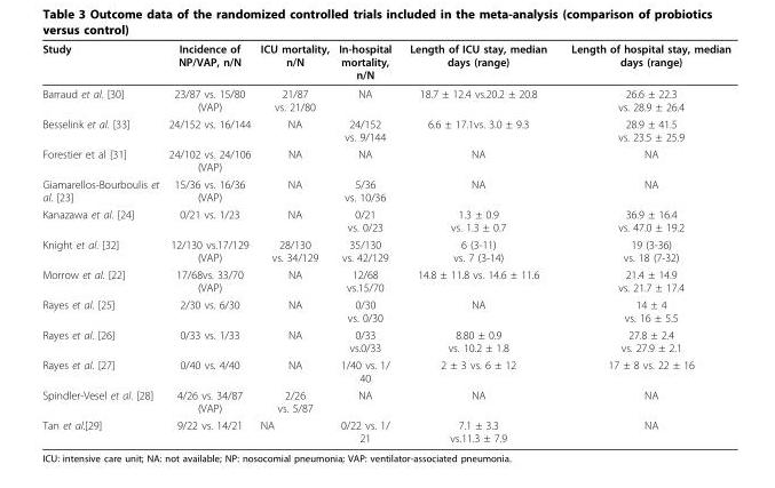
<table><thead><tr><td>Study</td><td>Incidence of NP/VAP, n/N</td><td>ICU mortality, n/N</td><td>In-hospital mortality, n/N</td><td>Length of ICU stay, median days (range)</td><td>Length of hospital stay, median days (range)</td></tr></thead><tbody><tr><td>Barraud et al. [30]</td><td>23/87 vs. 15/80 (VAP)</td><td>21/87 vs. 21/80</td><td>NA</td><td>18.7 ± 12.4 vs.20.2 ± 20.8</td><td>26.6 ± 22.3 vs. 28.9 ± 26.4</td></tr><tr><td>Besselink et al. [33]</td><td>24/152 vs. 16/144</td><td>NA</td><td>24/152 vs. 9/144</td><td>6.6 ± 17.1vs. 3.0 ± 9.3</td><td>28.9 ± 41.5 vs. 23.5 ± 25.9</td></tr><tr><td>Forestier et al [31]</td><td>24/102 vs. 24/106 (VAP)</td><td>NA</td><td>NA</td><td>NA</td><td>NA</td></tr><tr><td>Giamarellos-Bourboulis et al. [23]</td><td>15/36 vs. 16/36 (VAP)</td><td>NA</td><td>5/36 vs. 10/36</td><td>NA</td><td>NA</td></tr><tr><td>Kanazawa et al. [24]</td><td>0/21 vs. 1/23</td><td>NA</td><td>0/21 vs. 0/23</td><td>1.3 ± 0.9 vs. 1.3 ± 0.7</td><td>36.9 ± 16.4 vs. 47.0 ± 19.2</td></tr><tr><td>Knight et al. [32]</td><td>12/130 vs.17/129 (VAP)</td><td>28/130 vs. 34/129</td><td>35/130 vs. 42/129</td><td>6 (3-11) vs. 7 (3-14)</td><td>19 (3-36) vs. 18 (7-32)</td></tr><tr><td>Morrow et al. [22]</td><td>17/68vs. 33/70 (VAP)</td><td>NA</td><td>12/68 vs.15/70</td><td>14.8 ± 11.8 vs. 14.6 ± 11.6</td><td>21.4 ± 14.9 vs. 21.7 ± 17.4</td></tr><tr><td>Rayes et al. [25]</td><td>2/30 vs. 6/30</td><td>NA</td><td>0/30 vs. 0/30</td><td>NA</td><td>14 ± 4 vs. 16 ± 5.5</td></tr><tr><td>Rayes et al. [26]</td><td>0/33 vs. 1/33</td><td>NA</td><td>0/33 vs.0/33</td><td>8.80 ± 0.9 vs. 10.2 ± 1.8</td><td>27.8 ± 2.4 vs. 27.9 ± 2.1</td></tr><tr><td>Rayes et al. [27]</td><td>0/40 vs. 4/40</td><td>NA</td><td>1/40 vs. 1/ 40</td><td>2 ± 3 vs. 6 ± 12</td><td>17 ± 8 vs. 22 ± 16</td></tr><tr><td>Spindler-Vesel et al. [28]</td><td>4/26 vs. 34/87 (VAP)</td><td>2/26 vs. 5/87</td><td>NA</td><td>NA</td><td>NA</td></tr><tr><td>Tan et al.[29]</td><td>9/22 vs. 14/21</td><td>NA</td><td>0/22 vs. 1/ 21</td><td>7.1 ± 3.3 vs.11.3 ± 7.9</td><td>NA</td></tr></tbody></table>